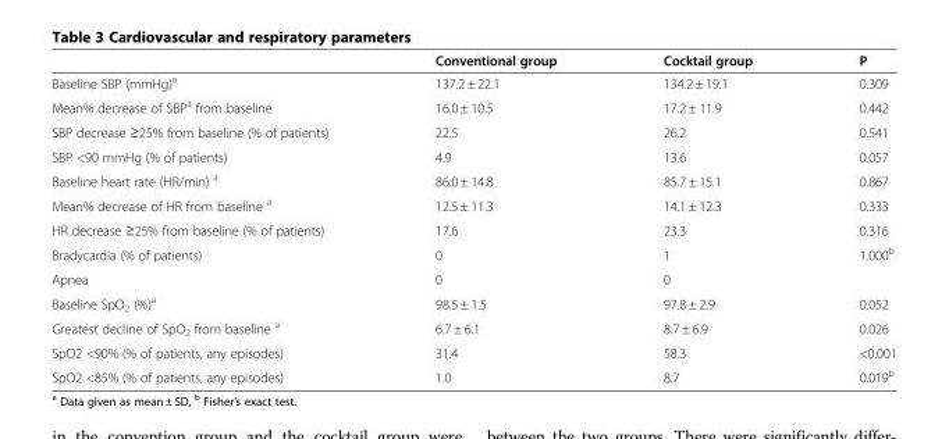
<table><thead><tr><td></td><td>Conventional group</td><td>Cocktail group</td><td>P</td></tr></thead><tbody><tr><td>Baseline SBP (mmHg)<sup>a</sup></td><td>137.2 ± 22.1</td><td>134.2 ± 19.1</td><td>0.309</td></tr><tr><td>Mean% decrease of SBP<sup>a</sup> from baseline</td><td>16.0 ± 10.5</td><td>17.2 ± 11.9</td><td>0.442</td></tr><tr><td>SBP decrease ≥25% from baseline (% of patients)</td><td>22.5</td><td>26.2</td><td>0.541</td></tr><tr><td>SBP &lt;90 mmHg (% of patients)</td><td>4.9</td><td>13.6</td><td>0.057</td></tr><tr><td>Baseline heart rate (HR/min) <sup>a</sup></td><td>86.0 ± 14.8</td><td>85.7 ± 15.1</td><td>0.867</td></tr><tr><td>Mean% decrease of HR from baseline <sup>a</sup></td><td>12.5 ± 11.3</td><td>14.1 ± 12.3</td><td>0.333</td></tr><tr><td>HR decrease ≥25% from baseline (% of patients)</td><td>17.6</td><td>23.3</td><td>0.316</td></tr><tr><td>Bradycardia (% of patients)</td><td>0</td><td>1</td><td>1.000<sup>b</sup></td></tr><tr><td>Apnea</td><td>0</td><td>0</td><td></td></tr><tr><td>Baseline SpO<sub>2</sub> (%)<sup>a</sup></td><td>98.5 ± 1.5</td><td>97.8 ± 2.9</td><td>0.052</td></tr><tr><td>Greatest decline of SpO<sub>2</sub> from baseline <sup>a</sup></td><td>6.7 ± 6.1</td><td>8.7 ± 6.9</td><td>0.026</td></tr><tr><td>SpO2 &lt;90% (% of patients, any episodes)</td><td>31.4</td><td>58.3</td><td>&lt;0.001</td></tr><tr><td>SpO2 &lt;85% (% of patients, any episodes)</td><td>1.0</td><td>8.7</td><td>0.019<sup>b</sup></td></tr></tbody></table>